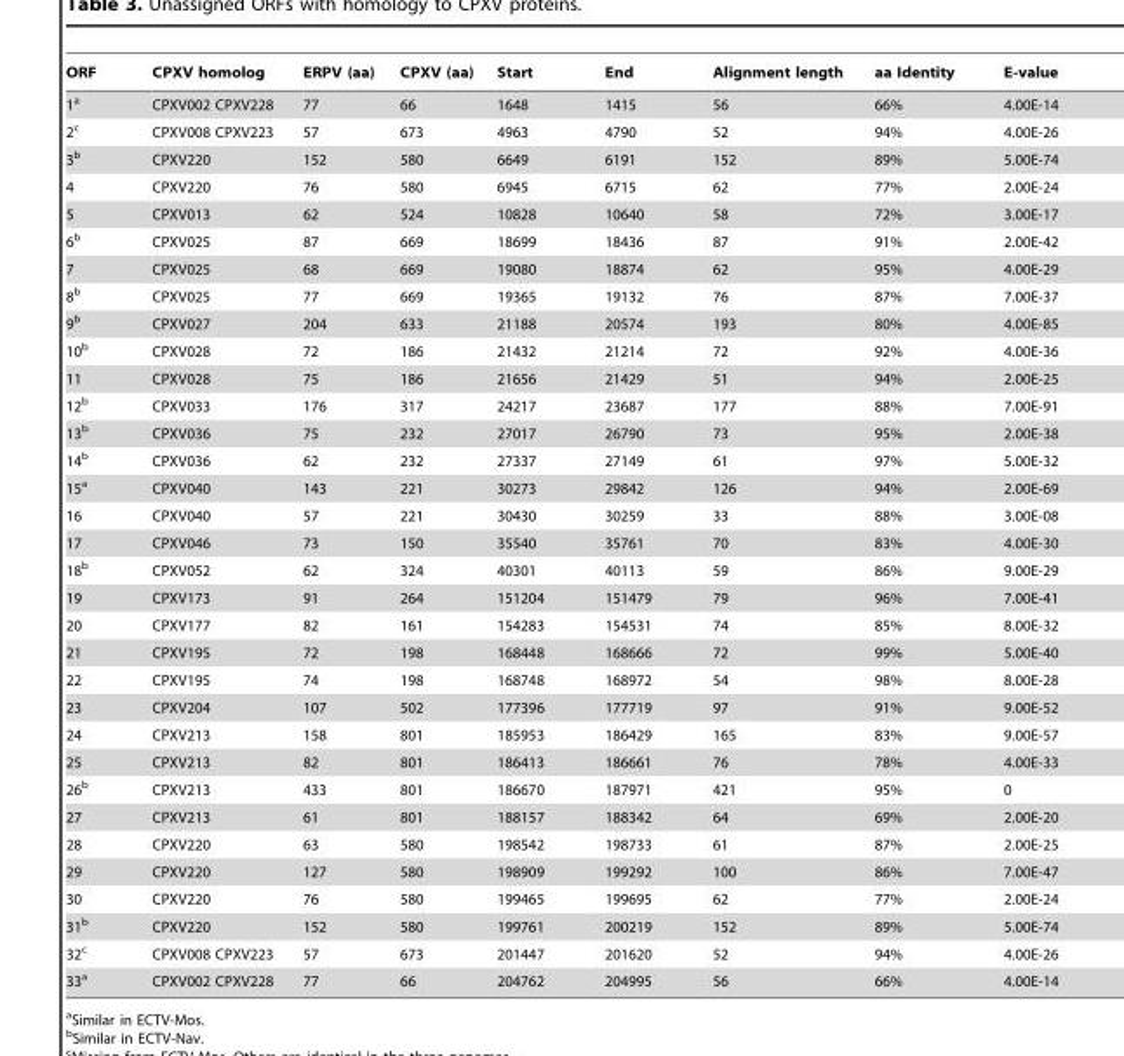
<table><thead><tr><td>ORF</td><td>CPXV homolog</td><td>ERPV (aa)</td><td>CPXV (aa)</td><td>Start</td><td>End</td><td>Alignment length</td><td>aa Identity</td><td>E-value</td></tr></thead><tbody><tr><td>1<sup>a</sup></td><td>CPXV002 CPXV228</td><td>77</td><td>66</td><td>1648</td><td>1415</td><td>56</td><td>66%</td><td>4.00E-14</td></tr><tr><td>2<sup>c</sup></td><td>CPXV008 CPXV223</td><td>57</td><td>673</td><td>4963</td><td>4790</td><td>52</td><td>94%</td><td>4.00E-26</td></tr><tr><td>3<sup>b</sup></td><td>CPXV220</td><td>152</td><td>580</td><td>6649</td><td>6191</td><td>152</td><td>89%</td><td>5.00E-74</td></tr><tr><td>4</td><td>CPXV220</td><td>76</td><td>580</td><td>6945</td><td>6715</td><td>62</td><td>77%</td><td>2.00E-24</td></tr><tr><td>5</td><td>CPXV013</td><td>62</td><td>524</td><td>10828</td><td>10640</td><td>58</td><td>72%</td><td>3.00E-17</td></tr><tr><td>6<sup>b</sup></td><td>CPXV025</td><td>87</td><td>669</td><td>18699</td><td>18436</td><td>87</td><td>91%</td><td>2.00E-42</td></tr><tr><td>7</td><td>CPXV025</td><td>68</td><td>669</td><td>19080</td><td>18874</td><td>62</td><td>95%</td><td>4.00E-29</td></tr><tr><td>8<sup>b</sup></td><td>CPXV025</td><td>77</td><td>669</td><td>19365</td><td>19132</td><td>76</td><td>87%</td><td>7.00E-37</td></tr><tr><td>9<sup>b</sup></td><td>CPXV027</td><td>204</td><td>633</td><td>21188</td><td>20574</td><td>193</td><td>80%</td><td>4.00E-85</td></tr><tr><td>10<sup>b</sup></td><td>CPXV028</td><td>72</td><td>186</td><td>21432</td><td>21214</td><td>72</td><td>92%</td><td>4.00E-36</td></tr><tr><td>11</td><td>CPXV028</td><td>75</td><td>186</td><td>21656</td><td>21429</td><td>51</td><td>94%</td><td>2.00E-25</td></tr><tr><td>12<sup>b</sup></td><td>CPXV033</td><td>176</td><td>317</td><td>24217</td><td>23687</td><td>177</td><td>88%</td><td>7.00E-91</td></tr><tr><td>13<sup>b</sup></td><td>CPXV036</td><td>75</td><td>232</td><td>27017</td><td>26790</td><td>73</td><td>95%</td><td>2.00E-38</td></tr><tr><td>14<sup>b</sup></td><td>CPXV036</td><td>62</td><td>232</td><td>27337</td><td>27149</td><td>61</td><td>97%</td><td>5.00E-32</td></tr><tr><td>15<sup>a</sup></td><td>CPXV040</td><td>143</td><td>221</td><td>30273</td><td>29842</td><td>126</td><td>94%</td><td>2.00E-69</td></tr><tr><td>16</td><td>CPXV040</td><td>57</td><td>221</td><td>30430</td><td>30259</td><td>33</td><td>88%</td><td>3.00E-08</td></tr><tr><td>17</td><td>CPXV046</td><td>73</td><td>150</td><td>35540</td><td>35761</td><td>70</td><td>83%</td><td>4.00E-30</td></tr><tr><td>18<sup>b</sup></td><td>CPXV052</td><td>62</td><td>324</td><td>40301</td><td>40113</td><td>59</td><td>86%</td><td>9.00E-29</td></tr><tr><td>19</td><td>CPXV173</td><td>91</td><td>264</td><td>151204</td><td>151479</td><td>79</td><td>96%</td><td>7.00E-41</td></tr><tr><td>20</td><td>CPXV177</td><td>82</td><td>161</td><td>154283</td><td>154531</td><td>74</td><td>85%</td><td>8.00E-32</td></tr><tr><td>21</td><td>CPXV195</td><td>72</td><td>198</td><td>168448</td><td>168666</td><td>72</td><td>99%</td><td>5.00E-40</td></tr><tr><td>22</td><td>CPXV195</td><td>74</td><td>198</td><td>168748</td><td>168972</td><td>54</td><td>98%</td><td>8.00E-28</td></tr><tr><td>23</td><td>CPXV204</td><td>107</td><td>502</td><td>177396</td><td>177719</td><td>97</td><td>91%</td><td>9.00E-52</td></tr><tr><td>24</td><td>CPXV213</td><td>158</td><td>801</td><td>185953</td><td>186429</td><td>165</td><td>83%</td><td>9.00E-57</td></tr><tr><td>25</td><td>CPXV213</td><td>82</td><td>801</td><td>186413</td><td>186661</td><td>76</td><td>78%</td><td>4.00E-33</td></tr><tr><td>26<sup>b</sup></td><td>CPXV213</td><td>433</td><td>801</td><td>186670</td><td>187971</td><td>421</td><td>95%</td><td>0</td></tr><tr><td>27</td><td>CPXV213</td><td>61</td><td>801</td><td>188157</td><td>188342</td><td>64</td><td>69%</td><td>2.00E-20</td></tr><tr><td>28</td><td>CPXV220</td><td>63</td><td>580</td><td>198542</td><td>198733</td><td>61</td><td>87%</td><td>2.00E-25</td></tr><tr><td>29</td><td>CPXV220</td><td>127</td><td>580</td><td>198909</td><td>199292</td><td>100</td><td>86%</td><td>7.00E-47</td></tr><tr><td>30</td><td>CPXV220</td><td>76</td><td>580</td><td>199465</td><td>199695</td><td>62</td><td>77%</td><td>2.00E-24</td></tr><tr><td>31<sup>b</sup></td><td>CPXV220</td><td>152</td><td>580</td><td>199761</td><td>200219</td><td>152</td><td>89%</td><td>5.00E-74</td></tr><tr><td>32<sup>c</sup></td><td>CPXV008 CPXV223</td><td>57</td><td>673</td><td>201447</td><td>201620</td><td>52</td><td>94%</td><td>4.00E-26</td></tr><tr><td>33<sup>a</sup></td><td>CPXV002 CPXV228</td><td>77</td><td>66</td><td>204762</td><td>204995</td><td>56</td><td>66%</td><td>4.00E-14</td></tr></tbody></table>